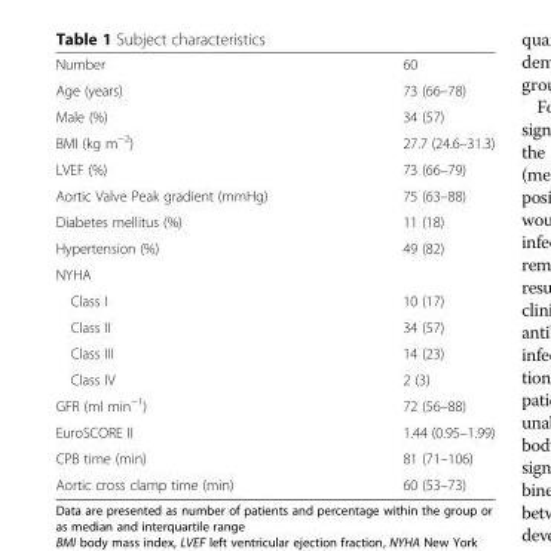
<table><tbody><tr><td>Number</td><td>60</td></tr><tr><td>Age (years)</td><td>73 (66–78)</td></tr><tr><td>Male (%)</td><td>34 (57)</td></tr><tr><td>BMI (kg m<sup>−2</sup>)</td><td>27.7 (24.6–31.3)</td></tr><tr><td>LVEF (%)</td><td>73 (66–79)</td></tr><tr><td>Aortic Valve Peak gradient (mmHg)</td><td>75 (63–88)</td></tr><tr><td>Diabetes mellitus (%)</td><td>11 (18)</td></tr><tr><td>Hypertension (%)</td><td>49 (82)</td></tr><tr><td colspan="2">NYHA</td></tr><tr><td>Class I</td><td>10 (17)</td></tr><tr><td>Class II</td><td>34 (57)</td></tr><tr><td>Class III</td><td>14 (23)</td></tr><tr><td>Class IV</td><td>2 (3)</td></tr><tr><td>GFR (ml min<sup>−1</sup>)</td><td>72 (56–88)</td></tr><tr><td>EuroSCORE II</td><td>1.44 (0.95–1.99)</td></tr><tr><td>CPB time (min)</td><td>81 (71–106)</td></tr><tr><td>Aortic cross clamp time (min)</td><td>60 (53–73)</td></tr></tbody></table>